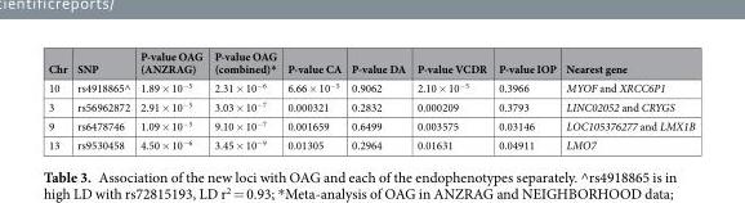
<table><thead><tr><td>Chr</td><td>SNP</td><td>P-value OAG (ANZRAG)</td><td>P-value OAG (combined)*</td><td>P-value CA</td><td>P-value DA</td><td>P-value VCDR</td><td>P-value IOP</td><td>Nearest gene</td></tr></thead><tbody><tr><td>10</td><td>rs4918865^</td><td>1.89 × 10<sup>−5</sup></td><td>2.31 × 10<sup>−6</sup></td><td>6.66 × 10<sup>−5</sup></td><td>0.9062</td><td>2.10 × 10<sup>−5</sup></td><td>0.3966</td><td>MYOF and XRCC6P1</td></tr><tr><td>3</td><td>rs56962872</td><td>2.91 × 10<sup>−5</sup></td><td>3.03 × 10<sup>−7</sup></td><td>0.000321</td><td>0.2832</td><td>0.000209</td><td>0.3793</td><td>LINC02052 and CRYGS</td></tr><tr><td>9</td><td>rs6478746</td><td>1.09 × 10<sup>−5</sup></td><td>9.10 × 10<sup>−7</sup></td><td>0.001659</td><td>0.6499</td><td>0.003575</td><td>0.03146</td><td>LOC105376277 and LMX1B</td></tr><tr><td>13</td><td>rs9530458</td><td>4.50 × 10<sup>−6</sup></td><td>3.45 × 10<sup>−9</sup></td><td>0.01305</td><td>0.2964</td><td>0.01631</td><td>0.04911</td><td>LMO7</td></tr></tbody></table>